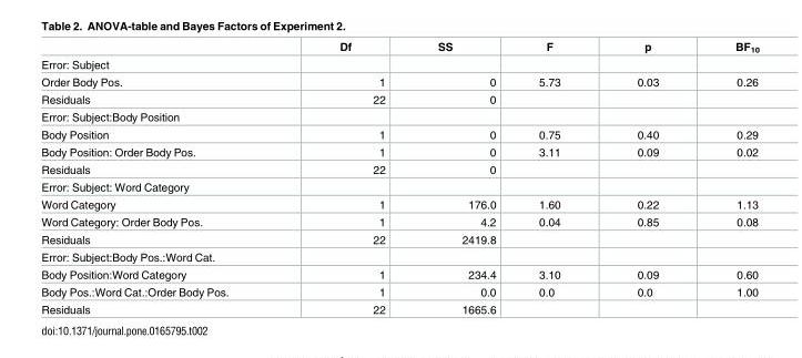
<table><thead><tr><td></td><td>Df</td><td>SS</td><td>F</td><td>p</td><td>BF<sub>10</sub></td></tr></thead><tbody><tr><td colspan="6">Error: Subject</td></tr><tr><td>Order Body Pos.</td><td>1</td><td>0</td><td>5.73</td><td>0.03</td><td>0.26</td></tr><tr><td>Residuals</td><td>22</td><td>0</td><td></td><td></td><td></td></tr><tr><td colspan="6">Error: Subject:Body Position</td></tr><tr><td>Body Position</td><td>1</td><td>0</td><td>0.75</td><td>0.40</td><td>0.29</td></tr><tr><td>Body Position: Order Body Pos.</td><td>1</td><td>0</td><td>3.11</td><td>0.09</td><td>0.02</td></tr><tr><td>Residuals</td><td>22</td><td>0</td><td></td><td></td><td></td></tr><tr><td colspan="6">Error: Subject: Word Category</td></tr><tr><td>Word Category</td><td>1</td><td>176.0</td><td>1.60</td><td>0.22</td><td>1.13</td></tr><tr><td>Word Category: Order Body Pos.</td><td>1</td><td>4.2</td><td>0.04</td><td>0.85</td><td>0.08</td></tr><tr><td>Residuals</td><td>22</td><td>2419.8</td><td></td><td></td><td></td></tr><tr><td colspan="6">Error: Subject:Body Pos.:Word Cat.</td></tr><tr><td>Body Position:Word Category</td><td>1</td><td>234.4</td><td>3.10</td><td>0.09</td><td>0.60</td></tr><tr><td>Body Pos.:Word Cat.:Order Body Pos.</td><td>1</td><td>0.0</td><td>0.0</td><td>0.0</td><td>1.00</td></tr><tr><td>Residuals</td><td>22</td><td>1665.6</td><td></td><td></td><td></td></tr></tbody></table>